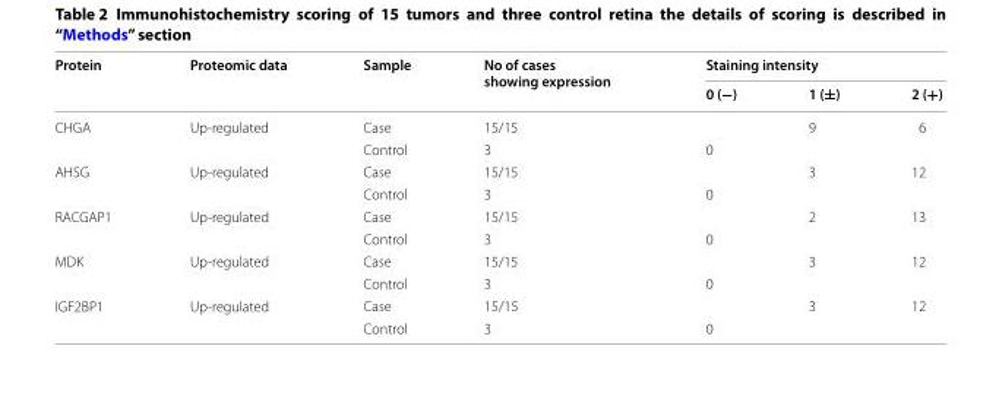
<table><thead><tr><td rowspan="2">Protein</td><td rowspan="2">Proteomic data</td><td rowspan="2">Sample</td><td rowspan="2">No of cases showing expression</td><td colspan="3">Staining intensity</td></tr><tr><td>0 (−)</td><td>1 (±)</td><td>2 (+)</td></tr></thead><tbody><tr><td rowspan="2">CHGA</td><td rowspan="2">Up-regulated</td><td>Case</td><td>15/15</td><td></td><td>9</td><td>6</td></tr><tr><td>Control</td><td>3</td><td>0</td><td></td><td></td></tr><tr><td rowspan="2">AHSG</td><td rowspan="2">Up-regulated</td><td>Case</td><td>15/15</td><td></td><td>3</td><td>12</td></tr><tr><td>Control</td><td>3</td><td>0</td><td></td><td></td></tr><tr><td rowspan="2">RACGAP1</td><td rowspan="2">Up-regulated</td><td>Case</td><td>15/15</td><td></td><td>2</td><td>13</td></tr><tr><td>Control</td><td>3</td><td>0</td><td></td><td></td></tr><tr><td rowspan="2">MDK</td><td rowspan="2">Up-regulated</td><td>Case</td><td>15/15</td><td></td><td>3</td><td>12</td></tr><tr><td>Control</td><td>3</td><td>0</td><td></td><td></td></tr><tr><td rowspan="2">IGF2BP1</td><td rowspan="2">Up-regulated</td><td>Case</td><td>15/15</td><td></td><td>3</td><td>12</td></tr><tr><td>Control</td><td>3</td><td>0</td><td></td><td></td></tr></tbody></table>